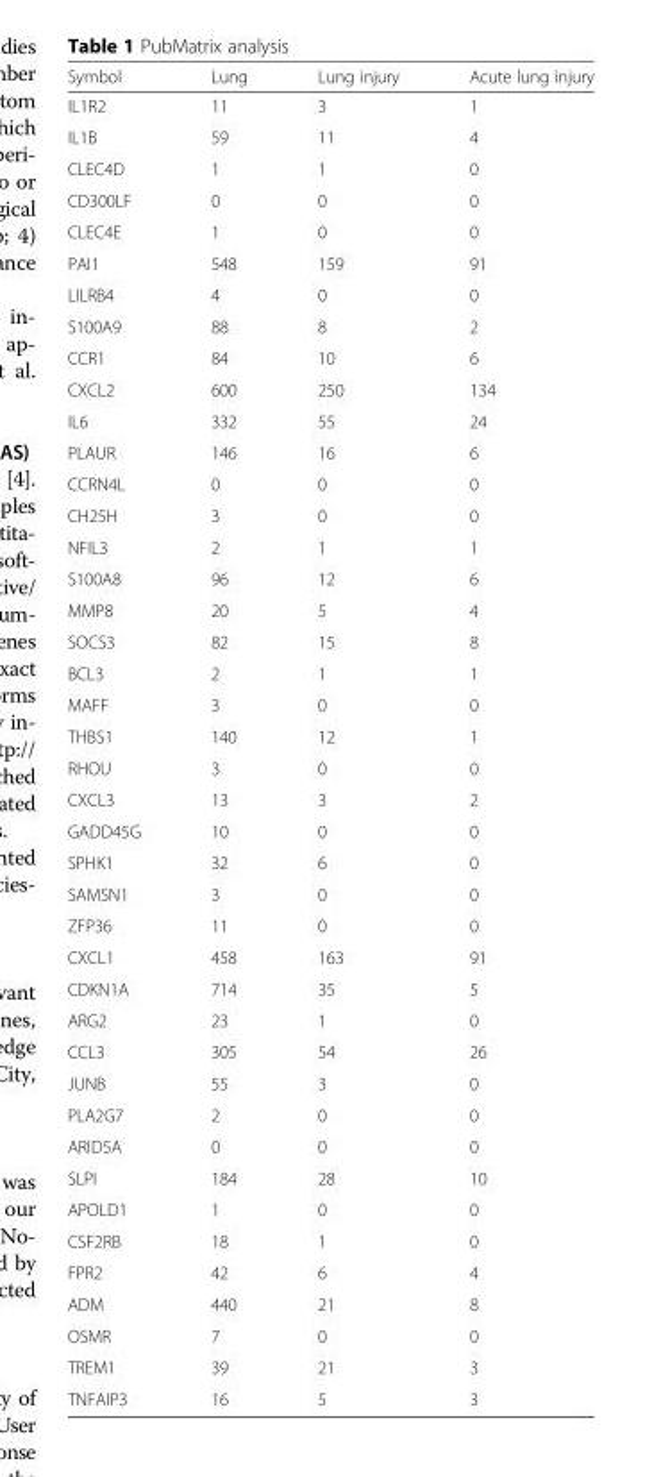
<table><thead><tr><td>Symbol</td><td>Lung</td><td>Lung injury</td><td>Acute lung injury</td></tr></thead><tbody><tr><td>IL1R2</td><td>11</td><td>3</td><td>1</td></tr><tr><td>IL1B</td><td>59</td><td>11</td><td>4</td></tr><tr><td>CLEC4D</td><td>1</td><td>1</td><td>0</td></tr><tr><td>CD300LF</td><td>0</td><td>0</td><td>0</td></tr><tr><td>CLEC4E</td><td>1</td><td>0</td><td>0</td></tr><tr><td>PAI1</td><td>548</td><td>159</td><td>91</td></tr><tr><td>LILRB4</td><td>4</td><td>0</td><td>0</td></tr><tr><td>S100A9</td><td>88</td><td>8</td><td>2</td></tr><tr><td>CCR1</td><td>84</td><td>10</td><td>6</td></tr><tr><td>CXCL2</td><td>600</td><td>250</td><td>134</td></tr><tr><td>IL6</td><td>332</td><td>55</td><td>24</td></tr><tr><td>PLAUR</td><td>146</td><td>16</td><td>6</td></tr><tr><td>CCRN4L</td><td>0</td><td>0</td><td>0</td></tr><tr><td>CH25H</td><td>3</td><td>0</td><td>0</td></tr><tr><td>NFIL3</td><td>2</td><td>1</td><td>1</td></tr><tr><td>S100A8</td><td>96</td><td>12</td><td>6</td></tr><tr><td>MMP8</td><td>20</td><td>5</td><td>4</td></tr><tr><td>SOCS3</td><td>82</td><td>15</td><td>8</td></tr><tr><td>BCL3</td><td>2</td><td>1</td><td>1</td></tr><tr><td>MAFF</td><td>3</td><td>0</td><td>0</td></tr><tr><td>THBS1</td><td>140</td><td>12</td><td>1</td></tr><tr><td>RHOU</td><td>3</td><td>0</td><td>0</td></tr><tr><td>CXCL3</td><td>13</td><td>3</td><td>2</td></tr><tr><td>GADD45G</td><td>10</td><td>0</td><td>0</td></tr><tr><td>SPHK1</td><td>32</td><td>6</td><td>0</td></tr><tr><td>SAMSN1</td><td>3</td><td>0</td><td>0</td></tr><tr><td>ZFP36</td><td>11</td><td>0</td><td>0</td></tr><tr><td>CXCL1</td><td>458</td><td>163</td><td>91</td></tr><tr><td>CDKN1A</td><td>714</td><td>35</td><td>5</td></tr><tr><td>ARG2</td><td>23</td><td>1</td><td>0</td></tr><tr><td>CCL3</td><td>305</td><td>54</td><td>26</td></tr><tr><td>JUNB</td><td>55</td><td>3</td><td>0</td></tr><tr><td>PLA2G7</td><td>2</td><td>0</td><td>0</td></tr><tr><td>ARID5A</td><td>0</td><td>0</td><td>0</td></tr><tr><td>SLPI</td><td>184</td><td>28</td><td>10</td></tr><tr><td>APOLD1</td><td>1</td><td>0</td><td>0</td></tr><tr><td>CSF2RB</td><td>18</td><td>1</td><td>0</td></tr><tr><td>FPR2</td><td>42</td><td>6</td><td>4</td></tr><tr><td>ADM</td><td>440</td><td>21</td><td>8</td></tr><tr><td>OSMR</td><td>7</td><td>0</td><td>0</td></tr><tr><td>TREM1</td><td>39</td><td>21</td><td>3</td></tr><tr><td>TNFAIP3</td><td>16</td><td>5</td><td>3</td></tr></tbody></table>